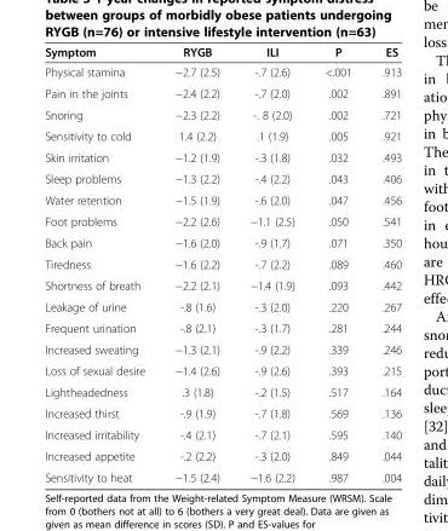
<table><thead><tr><td>Symptom</td><td>RYGB</td><td>ILI</td><td>P</td><td>ES</td></tr></thead><tbody><tr><td>Physical stamina</td><td>−2.7 (2.5)</td><td>-.7 (2.6)</td><td>&lt;.001</td><td>.913</td></tr><tr><td>Pain in the joints</td><td>−2.4 (2.2)</td><td>-.7 (2.0)</td><td>.002</td><td>.891</td></tr><tr><td>Snoring</td><td>−2.3 (2.2)</td><td>-. 8 (2.0)</td><td>.002</td><td>.721</td></tr><tr><td>Sensitivity to cold</td><td>1.4 (2.2)</td><td>.1 (1.9)</td><td>.005</td><td>.921</td></tr><tr><td>Skin irritation</td><td>−1.2 (1.9)</td><td>-.3 (1.8)</td><td>.032</td><td>.493</td></tr><tr><td>Sleep problems</td><td>−1.3 (2.2)</td><td>-.4 (2.2)</td><td>.043</td><td>.406</td></tr><tr><td>Water retention</td><td>−1.5 (1.9)</td><td>-.6 (2.0)</td><td>.047</td><td>.456</td></tr><tr><td>Foot problems</td><td>−2.2 (2.6)</td><td>−1.1 (2.5)</td><td>.050</td><td>.541</td></tr><tr><td>Back pain</td><td>−1.6 (2.0)</td><td>-.9 (1.7)</td><td>.071</td><td>.350</td></tr><tr><td>Tiredness</td><td>−1.6 (2.2)</td><td>-.7 (2.2)</td><td>.089</td><td>.460</td></tr><tr><td>Shortness of breath</td><td>−2.2 (2.1)</td><td>−1.4 (1.9)</td><td>.093</td><td>.442</td></tr><tr><td>Leakage of urine</td><td>-.8 (1.6)</td><td>-.3 (2.0)</td><td>.220</td><td>.267</td></tr><tr><td>Frequent urination</td><td>-.8 (2.1)</td><td>-.3 (1.7)</td><td>.281</td><td>.244</td></tr><tr><td>Increased sweating</td><td>−1.3 (2.1)</td><td>-.9 (2.2)</td><td>.339</td><td>.246</td></tr><tr><td>Loss of sexual desire</td><td>−1.4 (2.6)</td><td>-.9 (2.6)</td><td>.393</td><td>.215</td></tr><tr><td>Lightheadedness</td><td>.3 (1.8)</td><td>-.2 (1.5)</td><td>.517</td><td>.164</td></tr><tr><td>Increased thirst</td><td>-.9 (1.9)</td><td>-.7 (1.8)</td><td>.569</td><td>.136</td></tr><tr><td>Increased irritability</td><td>-.4 (2.1)</td><td>-.7 (2.1)</td><td>.595</td><td>.140</td></tr><tr><td>Increased appetite</td><td>-.2 (2.2)</td><td>-.3 (2.0)</td><td>.849</td><td>.044</td></tr><tr><td>Sensitivity to heat</td><td>−1.5 (2.4)</td><td>−1.6 (2.2)</td><td>.987</td><td>.004</td></tr></tbody></table>